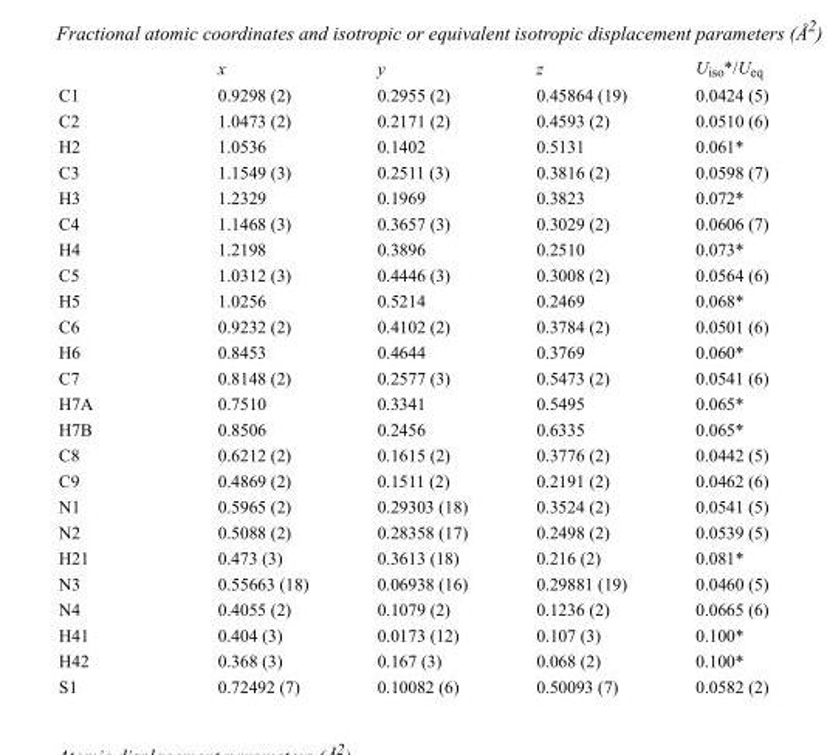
<table><thead><tr><td></td><td>x</td><td>y</td><td>z</td><td>U<sub>iso</sub>*/U<sub>eq</sub></td></tr></thead><tbody><tr><td>C1</td><td>0.9298 (2)</td><td>0.2955 (2)</td><td>0.45864 (19)</td><td>0.0424 (5)</td></tr><tr><td>C2</td><td>1.0473 (2)</td><td>0.2171 (2)</td><td>0.4593 (2)</td><td>0.0510 (6)</td></tr><tr><td>H2</td><td>1.0536</td><td>0.1402</td><td>0.5131</td><td>0.061*</td></tr><tr><td>C3</td><td>1.1549 (3)</td><td>0.2511 (3)</td><td>0.3816 (2)</td><td>0.0598 (7)</td></tr><tr><td>H3</td><td>1.2329</td><td>0.1969</td><td>0.3823</td><td>0.072*</td></tr><tr><td>C4</td><td>1.1468 (3)</td><td>0.3657 (3)</td><td>0.3029 (2)</td><td>0.0606 (7)</td></tr><tr><td>H4</td><td>1.2198</td><td>0.3896</td><td>0.2510</td><td>0.073*</td></tr><tr><td>C5</td><td>1.0312 (3)</td><td>0.4446 (3)</td><td>0.3008 (2)</td><td>0.0564 (6)</td></tr><tr><td>H5</td><td>1.0256</td><td>0.5214</td><td>0.2469</td><td>0.068*</td></tr><tr><td>C6</td><td>0.9232 (2)</td><td>0.4102 (2)</td><td>0.3784 (2)</td><td>0.0501 (6)</td></tr><tr><td>H6</td><td>0.8453</td><td>0.4644</td><td>0.3769</td><td>0.060*</td></tr><tr><td>C7</td><td>0.8148 (2)</td><td>0.2577 (3)</td><td>0.5473 (2)</td><td>0.0541 (6)</td></tr><tr><td>H7A</td><td>0.7510</td><td>0.3341</td><td>0.5495</td><td>0.065*</td></tr><tr><td>H7B</td><td>0.8506</td><td>0.2456</td><td>0.6335</td><td>0.065*</td></tr><tr><td>C8</td><td>0.6212 (2)</td><td>0.1615 (2)</td><td>0.3776 (2)</td><td>0.0442 (5)</td></tr><tr><td>C9</td><td>0.4869 (2)</td><td>0.1511 (2)</td><td>0.2191 (2)</td><td>0.0462 (6)</td></tr><tr><td>N1</td><td>0.5965 (2)</td><td>0.29303 (18)</td><td>0.3524 (2)</td><td>0.0541 (5)</td></tr><tr><td>N2</td><td>0.5088 (2)</td><td>0.28358 (17)</td><td>0.2498 (2)</td><td>0.0539 (5)</td></tr><tr><td>H21</td><td>0.473 (3)</td><td>0.3613 (18)</td><td>0.216 (2)</td><td>0.081*</td></tr><tr><td>N3</td><td>0.55663 (18)</td><td>0.06938 (16)</td><td>0.29881 (19)</td><td>0.0460 (5)</td></tr><tr><td>N4</td><td>0.4055 (2)</td><td>0.1079 (2)</td><td>0.1236 (2)</td><td>0.0665 (6)</td></tr><tr><td>H41</td><td>0.404 (3)</td><td>0.0173 (12)</td><td>0.107 (3)</td><td>0.100*</td></tr><tr><td>H42</td><td>0.368 (3)</td><td>0.167 (3)</td><td>0.068 (2)</td><td>0.100*</td></tr><tr><td>S1</td><td>0.72492 (7)</td><td>0.10082 (6)</td><td>0.50093 (7)</td><td>0.0582 (2)</td></tr></tbody></table>